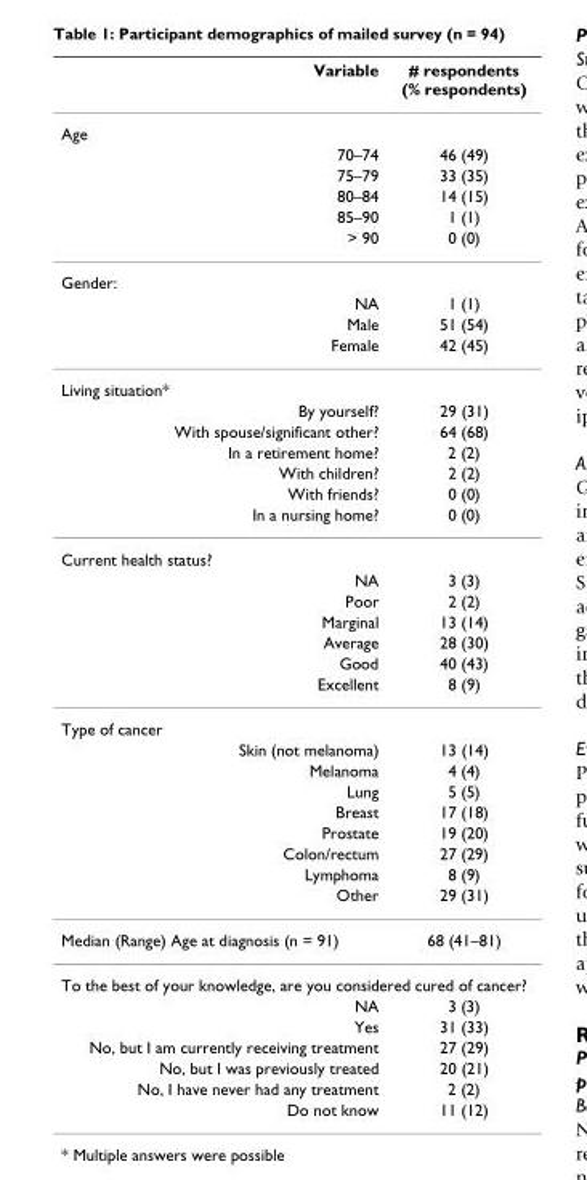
<table><thead><tr><td>Variable</td><td># respondents (% respondents)</td></tr></thead><tbody><tr><td colspan="2">Age</td></tr><tr><td>70–74</td><td>46 (49)</td></tr><tr><td>75–79</td><td>33 (35)</td></tr><tr><td>80–84</td><td>14 (15)</td></tr><tr><td>85–90</td><td>1 (1)</td></tr><tr><td>&gt; 90</td><td>0 (0)</td></tr><tr><td colspan="2">Gender:</td></tr><tr><td>NA</td><td>1 (1)</td></tr><tr><td>Male</td><td>51 (54)</td></tr><tr><td>Female</td><td>42 (45)</td></tr><tr><td colspan="2">Living situation*</td></tr><tr><td>By yourself?</td><td>29 (31)</td></tr><tr><td>With spouse/significant other?</td><td>64 (68)</td></tr><tr><td>In a retirement home?</td><td>2 (2)</td></tr><tr><td>With children?</td><td>2 (2)</td></tr><tr><td>With friends?</td><td>0 (0)</td></tr><tr><td>In a nursing home?</td><td>0 (0)</td></tr><tr><td colspan="2">Current health status?</td></tr><tr><td>NA</td><td>3 (3)</td></tr><tr><td>Poor</td><td>2 (2)</td></tr><tr><td>Marginal</td><td>13 (14)</td></tr><tr><td>Average</td><td>28 (30)</td></tr><tr><td>Good</td><td>40 (43)</td></tr><tr><td>Excellent</td><td>8 (9)</td></tr><tr><td colspan="2">Type of cancer</td></tr><tr><td>Skin (not melanoma)</td><td>13 (14)</td></tr><tr><td>Melanoma</td><td>4 (4)</td></tr><tr><td>Lung</td><td>5 (5)</td></tr><tr><td>Breast</td><td>17 (18)</td></tr><tr><td>Prostate</td><td>19 (20)</td></tr><tr><td>Colon/rectum</td><td>27 (29)</td></tr><tr><td>Lymphoma</td><td>8 (9)</td></tr><tr><td>Other</td><td>29 (31)</td></tr><tr><td>Median (Range) Age at diagnosis (n = 91)</td><td>68 (41–81)</td></tr><tr><td colspan="2">To the best of your knowledge, are you considered cured of cancer?</td></tr><tr><td>NA</td><td>3 (3)</td></tr><tr><td>Yes</td><td>31 (33)</td></tr><tr><td>No, but I am currently receiving treatment</td><td>27 (29)</td></tr><tr><td>No, but I was previously treated</td><td>20 (21)</td></tr><tr><td>No, I have never had any treatment</td><td>2 (2)</td></tr><tr><td>Do not know</td><td>11 (12)</td></tr></tbody></table>